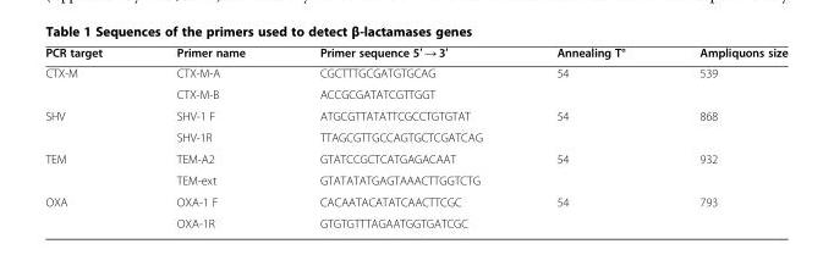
<table><thead><tr><td>PCR target</td><td>Primer name</td><td>Primer sequence 5′ → 3′</td><td>Annealing T°</td><td>Ampliquons size</td></tr></thead><tbody><tr><td rowspan="2">CTX-M</td><td>CTX-M-A</td><td>CGCTTTGCGATGTGCAG</td><td rowspan="2">54</td><td rowspan="2">539</td></tr><tr><td>CTX-M-B</td><td>ACCGCGATATCGTTGGT</td></tr><tr><td rowspan="2">SHV</td><td>SHV-1 F</td><td>ATGCGTTATATTCGCCTGTGTAT</td><td rowspan="2">54</td><td rowspan="2">868</td></tr><tr><td>SHV-1R</td><td>TTAGCGTTGCCAGTGCTCGATCAG</td></tr><tr><td rowspan="2">TEM</td><td>TEM-A2</td><td>GTATCCGCTCATGAGACAAT</td><td rowspan="2">54</td><td rowspan="2">932</td></tr><tr><td>TEM-ext</td><td>GTATATATGAGTAAACTTGGTCTG</td></tr><tr><td rowspan="2">OXA</td><td>OXA-1 F</td><td>CACAATACATATCAACTTCGC</td><td rowspan="2">54</td><td rowspan="2">793</td></tr><tr><td>OXA-1R</td><td>GTGTGTTTAGAATGGTGATCGC</td></tr></tbody></table>